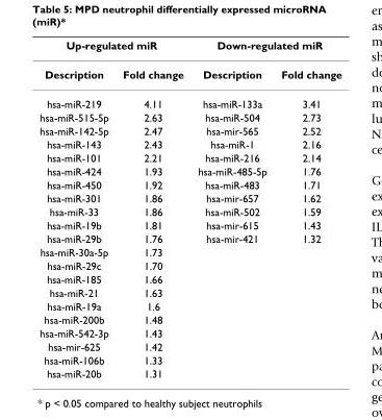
<table><thead><tr><td colspan="2">Up-regulated miR</td><td colspan="2">Down-regulated miR</td></tr><tr><td>Description</td><td>Fold change</td><td>Description</td><td>Fold change</td></tr></thead><tbody><tr><td>hsa-miR-219</td><td>4.11</td><td>hsa-miR-133a</td><td>3.41</td></tr><tr><td>hsa-miR-515-5p</td><td>2.63</td><td>hsa-miR-504</td><td>2.73</td></tr><tr><td>hsa-miR-142-5p</td><td>2.47</td><td>hsa-mir-565</td><td>2.52</td></tr><tr><td>hsa-miR-143</td><td>2.43</td><td>hsa-miR-1</td><td>2.16</td></tr><tr><td>hsa-miR-101</td><td>2.21</td><td>hsa-miR-216</td><td>2.14</td></tr><tr><td>hsa-miR-424</td><td>1.93</td><td>hsa-miR-485-5p</td><td>1.76</td></tr><tr><td>hsa-miR-450</td><td>1.92</td><td>hsa-miR-483</td><td>1.71</td></tr><tr><td>hsa-miR-301</td><td>1.86</td><td>hsa-mir-657</td><td>1.62</td></tr><tr><td>hsa-miR-33</td><td>1.86</td><td>hsa-miR-502</td><td>1.59</td></tr><tr><td>hsa-miR-19b</td><td>1.81</td><td>hsa-mir-615</td><td>1.43</td></tr><tr><td>hsa-miR-29b</td><td>1.76</td><td>hsa-mir-421</td><td>1.32</td></tr><tr><td>hsa-miR-30a-5p</td><td>1.73</td><td></td><td></td></tr><tr><td>hsa-miR-29c</td><td>1.70</td><td></td><td></td></tr><tr><td>hsa-miR-185</td><td>1.66</td><td></td><td></td></tr><tr><td>hsa-miR-21</td><td>1.63</td><td></td><td></td></tr><tr><td>hsa-miR-19a</td><td>1.6</td><td></td><td></td></tr><tr><td>hsa-miR-200b</td><td>1.48</td><td></td><td></td></tr><tr><td>hsa-miR-542-3p</td><td>1.43</td><td></td><td></td></tr><tr><td>hsa-mir-625</td><td>1.42</td><td></td><td></td></tr><tr><td>hsa-miR-106b</td><td>1.33</td><td></td><td></td></tr><tr><td>hsa-miR-20b</td><td>1.31</td><td></td><td></td></tr></tbody></table>